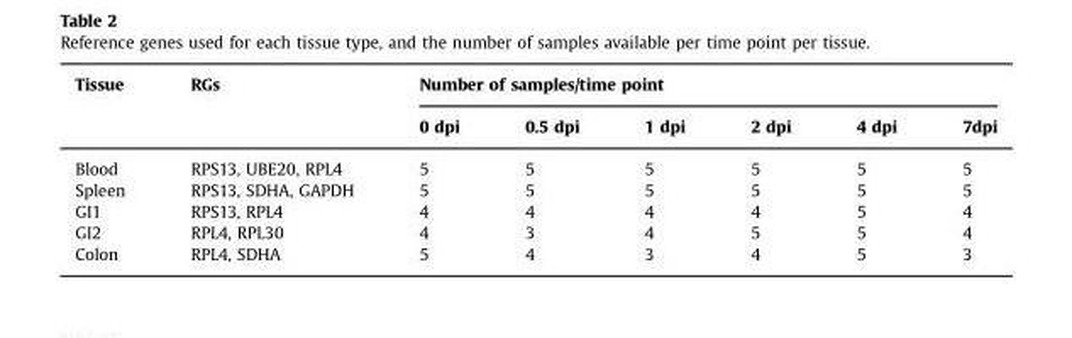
<table><thead><tr><td rowspan="2">Tissue</td><td rowspan="2">RGs</td><td colspan="6">Number of samples/time point</td></tr><tr><td>0 dpi</td><td>0.5 dpi</td><td>1 dpi</td><td>2 dpi</td><td>4 dpi</td><td>7dpi</td></tr></thead><tbody><tr><td>Blood</td><td>RPS13, UBE20, RPL4</td><td>5</td><td>5</td><td>5</td><td>5</td><td>5</td><td>5</td></tr><tr><td>Spleen</td><td>RPS13, SDHA, GAPDH</td><td>5</td><td>5</td><td>5</td><td>5</td><td>5</td><td>5</td></tr><tr><td>GI1</td><td>RPS13, RPL4</td><td>4</td><td>4</td><td>4</td><td>4</td><td>5</td><td>4</td></tr><tr><td>GI2</td><td>RPL4, RPL30</td><td>4</td><td>3</td><td>4</td><td>5</td><td>5</td><td>4</td></tr><tr><td>Colon</td><td>RPL4, SDHA</td><td>5</td><td>4</td><td>3</td><td>4</td><td>5</td><td>3</td></tr></tbody></table>